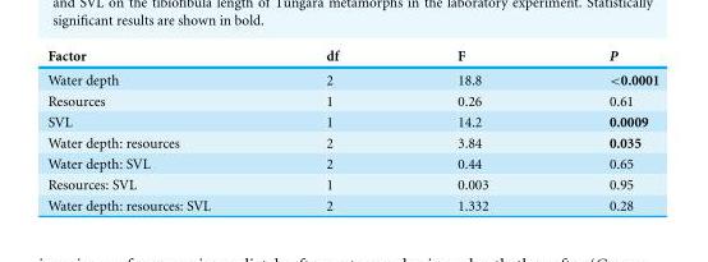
<table><thead><tr><td>Factor</td><td>df</td><td>F</td><td>P</td></tr></thead><tbody><tr><td>Water depth</td><td>2</td><td>18.8</td><td>&lt;0.0001</td></tr><tr><td>Resources</td><td>1</td><td>0.26</td><td>0.61</td></tr><tr><td>SVL</td><td>1</td><td>14.2</td><td>0.0009</td></tr><tr><td>Water depth: resources</td><td>2</td><td>3.84</td><td>0.035</td></tr><tr><td>Water depth: SVL</td><td>2</td><td>0.44</td><td>0.65</td></tr><tr><td>Resources: SVL</td><td>1</td><td>0.003</td><td>0.95</td></tr><tr><td>Water depth: resources: SVL</td><td>2</td><td>1.332</td><td>0.28</td></tr></tbody></table>